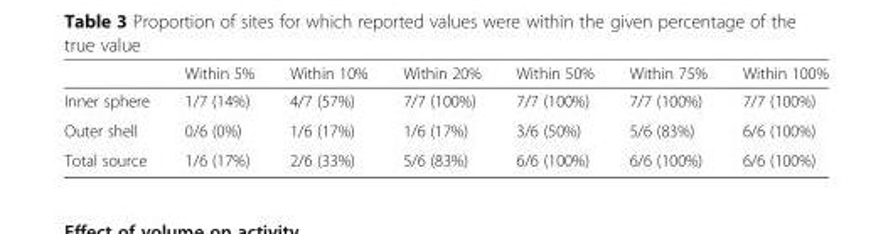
<table><thead><tr><td></td><td>Within 5%</td><td>Within 10%</td><td>Within 20%</td><td>Within 50%</td><td>Within 75%</td><td>Within 100%</td></tr></thead><tbody><tr><td>Inner sphere</td><td>1/7 (14%)</td><td>4/7 (57%)</td><td>7/7 (100%)</td><td>7/7 (100%)</td><td>7/7 (100%)</td><td>7/7 (100%)</td></tr><tr><td>Outer shell</td><td>0/6 (0%)</td><td>1/6 (17%)</td><td>1/6 (17%)</td><td>3/6 (50%)</td><td>5/6 (83%)</td><td>6/6 (100%)</td></tr><tr><td>Total source</td><td>1/6 (17%)</td><td>2/6 (33%)</td><td>5/6 (83%)</td><td>6/6 (100%)</td><td>6/6 (100%)</td><td>6/6 (100%)</td></tr></tbody></table>